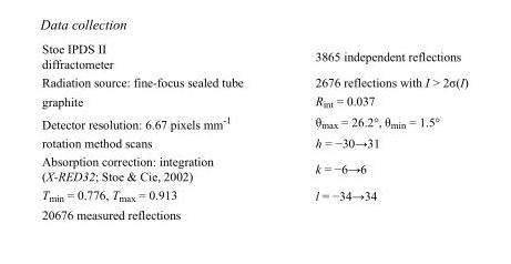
<table><tbody><tr><td>Stoe IPDS II diffractometer</td><td>3865 independent reflections</td></tr><tr><td>Radiation source: fine-focus sealed tube</td><td>2676 reflections with I &gt; 2σ(I)</td></tr><tr><td>graphite</td><td>R<sub>int</sub> = 0.037</td></tr><tr><td>Detector resolution: 6.67 pixels mm<sup>-1</sup></td><td>θ<sub>max</sub> = 26.2°, θ<sub>min</sub> = 1.5°</td></tr><tr><td>rotation method scans</td><td>h = −30→31</td></tr><tr><td>Absorption correction: integration (X-RED32; Stoe &amp; Cie, 2002)</td><td>k = −6→6</td></tr><tr><td>T<sub>min</sub> = 0.776, T<sub>max</sub> = 0.913</td><td>l = −34→34</td></tr><tr><td>20676 measured reflections</td><td></td></tr></tbody></table>